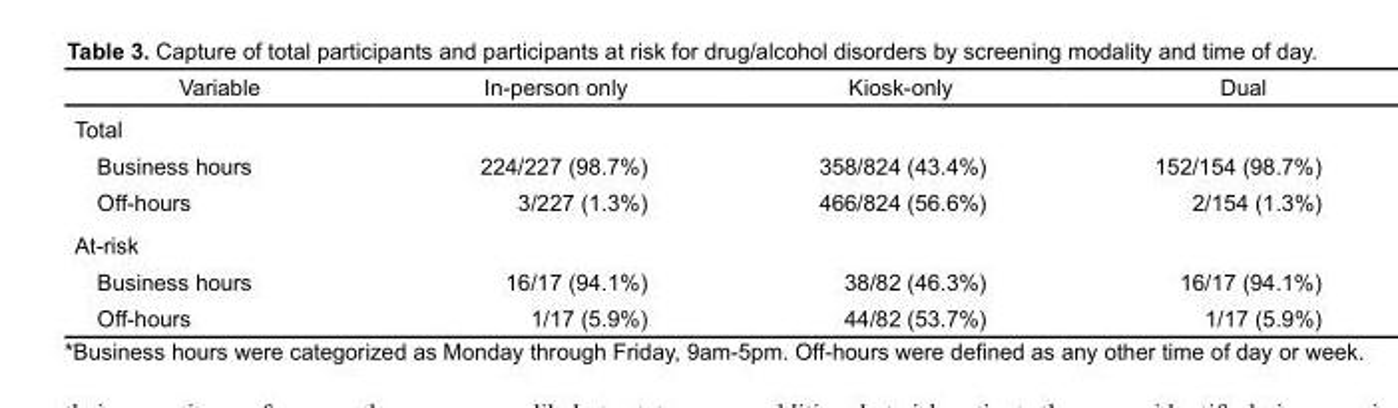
<table><thead><tr><td>Variable</td><td>In-person only</td><td>Kiosk-only</td><td>Dual</td></tr></thead><tbody><tr><td colspan="4">Total</td></tr><tr><td>Business hours</td><td>224/227 (98.7%)</td><td>358/824 (43.4%)</td><td>152/154 (98.7%)</td></tr><tr><td>Off-hours</td><td>3/227 (1.3%)</td><td>466/824 (56.6%)</td><td>2/154 (1.3%)</td></tr><tr><td colspan="4">At-risk</td></tr><tr><td>Business hours</td><td>16/17 (94.1%)</td><td>38/82 (46.3%)</td><td>16/17 (94.1%)</td></tr><tr><td>Off-hours</td><td>1/17 (5.9%)</td><td>44/82 (53.7%)</td><td>1/17 (5.9%)</td></tr></tbody></table>